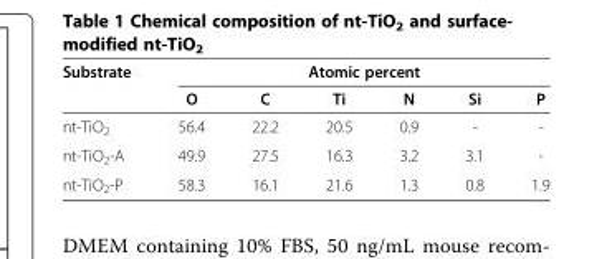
<table><thead><tr><td rowspan="2">Substrate</td><td colspan="6">Atomic percent</td></tr><tr><td>O</td><td>C</td><td>Ti</td><td>N</td><td>Si</td><td>P</td></tr></thead><tbody><tr><td>nt-TiO<sub>2</sub></td><td>56.4</td><td>22.2</td><td>20.5</td><td>0.9</td><td>-</td><td>-</td></tr><tr><td>nt-TiO<sub>2</sub>-A</td><td>49.9</td><td>27.5</td><td>16.3</td><td>3.2</td><td>3.1</td><td>-</td></tr><tr><td>nt-TiO<sub>2</sub>-P</td><td>58.3</td><td>16.1</td><td>21.6</td><td>1.3</td><td>0.8</td><td>1.9</td></tr></tbody></table>